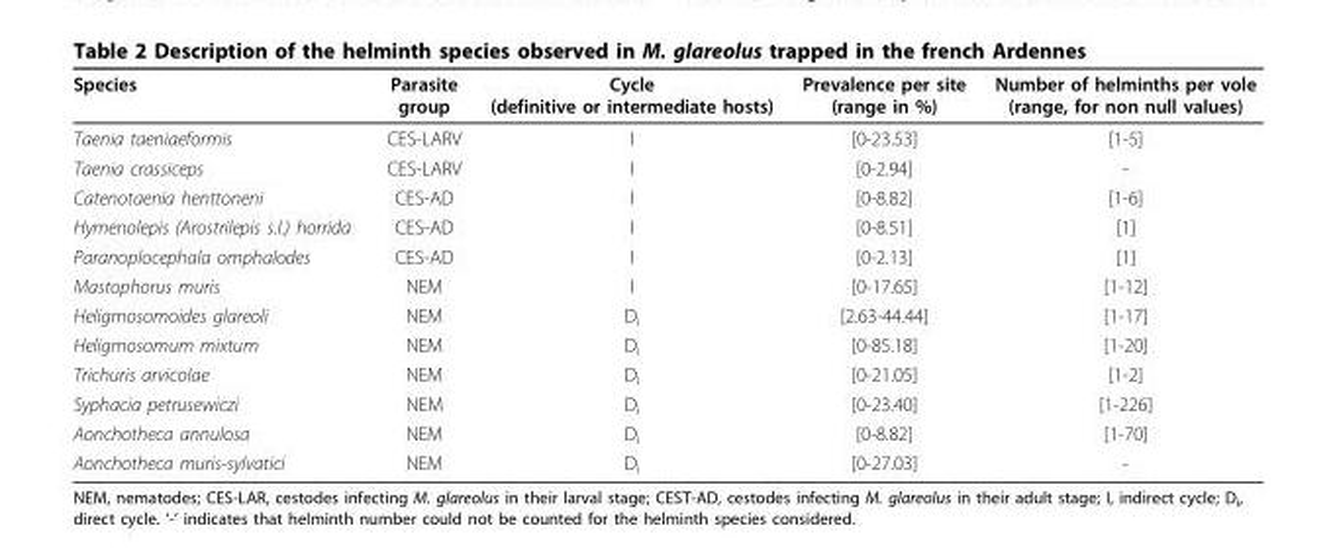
<table><thead><tr><td>Species</td><td>Parasite group</td><td>Cycle (definitive or intermediate hosts)</td><td>Prevalence per site (range in %)</td><td>Number of helminths per vole (range, for non null values)</td></tr></thead><tbody><tr><td>Taenia taeniaeformis</td><td>CES-LARV</td><td>I</td><td>[0-23.53]</td><td>[1-5]</td></tr><tr><td>Taenia crassiceps</td><td>CES-LARV</td><td>I</td><td>[0-2.94]</td><td>-</td></tr><tr><td>Catenotaenia henttoneni</td><td>CES-AD</td><td>I</td><td>[0-8.82]</td><td>[1-6]</td></tr><tr><td>Hymenolepis (Arostrilepis s.l.) horrida</td><td>CES-AD</td><td>I</td><td>[0-8.51]</td><td>[1]</td></tr><tr><td>Paranoplocephala omphalodes</td><td>CES-AD</td><td>I</td><td>[0-2.13]</td><td>[1]</td></tr><tr><td>Mastophorus muris</td><td>NEM</td><td>I</td><td>[0-17.65]</td><td>[1-12]</td></tr><tr><td>Heligmosomoides glareoli</td><td>NEM</td><td>D<sub>i</sub></td><td>[2.63-44.44]</td><td>[1-17]</td></tr><tr><td>Heligmosomum mixtum</td><td>NEM</td><td>D<sub>i</sub></td><td>[0-85.18]</td><td>[1-20]</td></tr><tr><td>Trichuris arvicolae</td><td>NEM</td><td>D<sub>i</sub></td><td>[0-21.05]</td><td>[1-2]</td></tr><tr><td>Syphacia petrusewiczi</td><td>NEM</td><td>D<sub>i</sub></td><td>[0-23.40]</td><td>[1-226]</td></tr><tr><td>Aonchotheca annulosa</td><td>NEM</td><td>D<sub>i</sub></td><td>[0-8.82]</td><td>[1-70]</td></tr><tr><td>Aonchotheca muris-sylvatici</td><td>NEM</td><td>D<sub>i</sub></td><td>[0-27.03]</td><td>-</td></tr></tbody></table>